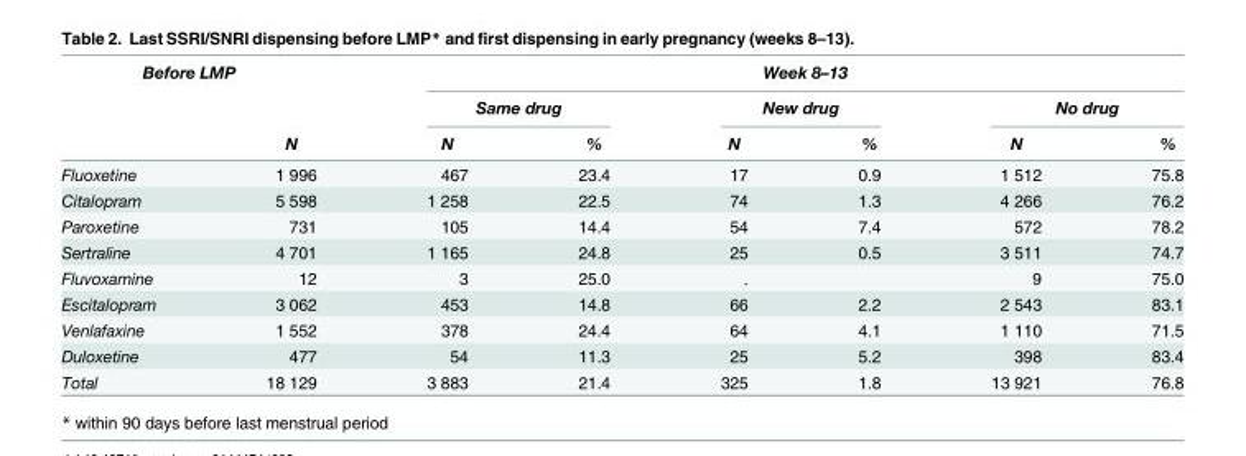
<table><thead><tr><td colspan="2">Before LMP</td><td colspan="6">Week 8–13</td></tr><tr><td rowspan="2"></td><td rowspan="2">N</td><td colspan="2">Same drug</td><td colspan="2">New drug</td><td colspan="2">No drug</td></tr><tr><td>N</td><td>%</td><td>N</td><td>%</td><td>N</td><td>%</td></tr></thead><tbody><tr><td>Fluoxetine</td><td>1 996</td><td>467</td><td>23.4</td><td>17</td><td>0.9</td><td>1 512</td><td>75.8</td></tr><tr><td>Citalopram</td><td>5 598</td><td>1 258</td><td>22.5</td><td>74</td><td>1.3</td><td>4 266</td><td>76.2</td></tr><tr><td>Paroxetine</td><td>731</td><td>105</td><td>14.4</td><td>54</td><td>7.4</td><td>572</td><td>78.2</td></tr><tr><td>Sertraline</td><td>4 701</td><td>1 165</td><td>24.8</td><td>25</td><td>0.5</td><td>3 511</td><td>74.7</td></tr><tr><td>Fluvoxamine</td><td>12</td><td>3</td><td>25.0</td><td>.</td><td></td><td>9</td><td>75.0</td></tr><tr><td>Escitalopram</td><td>3 062</td><td>453</td><td>14.8</td><td>66</td><td>2.2</td><td>2 543</td><td>83.1</td></tr><tr><td>Venlafaxine</td><td>1 552</td><td>378</td><td>24.4</td><td>64</td><td>4.1</td><td>1 110</td><td>71.5</td></tr><tr><td>Duloxetine</td><td>477</td><td>54</td><td>11.3</td><td>25</td><td>5.2</td><td>398</td><td>83.4</td></tr><tr><td>Total</td><td>18 129</td><td>3 883</td><td>21.4</td><td>325</td><td>1.8</td><td>13 921</td><td>76.8</td></tr></tbody></table>